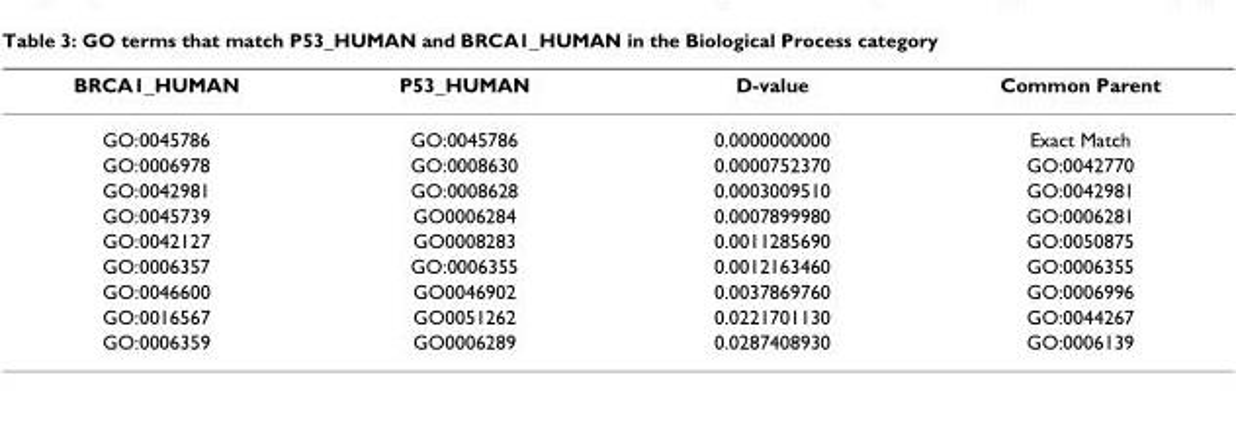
<table><thead><tr><td>BRCA1_HUMAN</td><td>P53_HUMAN</td><td>D-value</td><td>Common Parent</td></tr></thead><tbody><tr><td>GO:0045786</td><td>GO:0045786</td><td>0.0000000000</td><td>Exact Match</td></tr><tr><td>GO:0006978</td><td>GO:0008630</td><td>0.0000752370</td><td>GO:0042770</td></tr><tr><td>GO:0042981</td><td>GO:0008628</td><td>0.0003009510</td><td>GO:0042981</td></tr><tr><td>GO:0045739</td><td>GO0006284</td><td>0.0007899980</td><td>GO:0006281</td></tr><tr><td>GO:0042127</td><td>GO0008283</td><td>0.0011285690</td><td>GO:0050875</td></tr><tr><td>GO:0006357</td><td>GO:0006355</td><td>0.0012163460</td><td>GO:0006355</td></tr><tr><td>GO:0046600</td><td>GO0046902</td><td>0.0037869760</td><td>GO:0006996</td></tr><tr><td>GO:0016567</td><td>GO0051262</td><td>0.0221701130</td><td>GO:0044267</td></tr><tr><td>GO:0006359</td><td>GO0006289</td><td>0.0287408930</td><td>GO:0006139</td></tr></tbody></table>